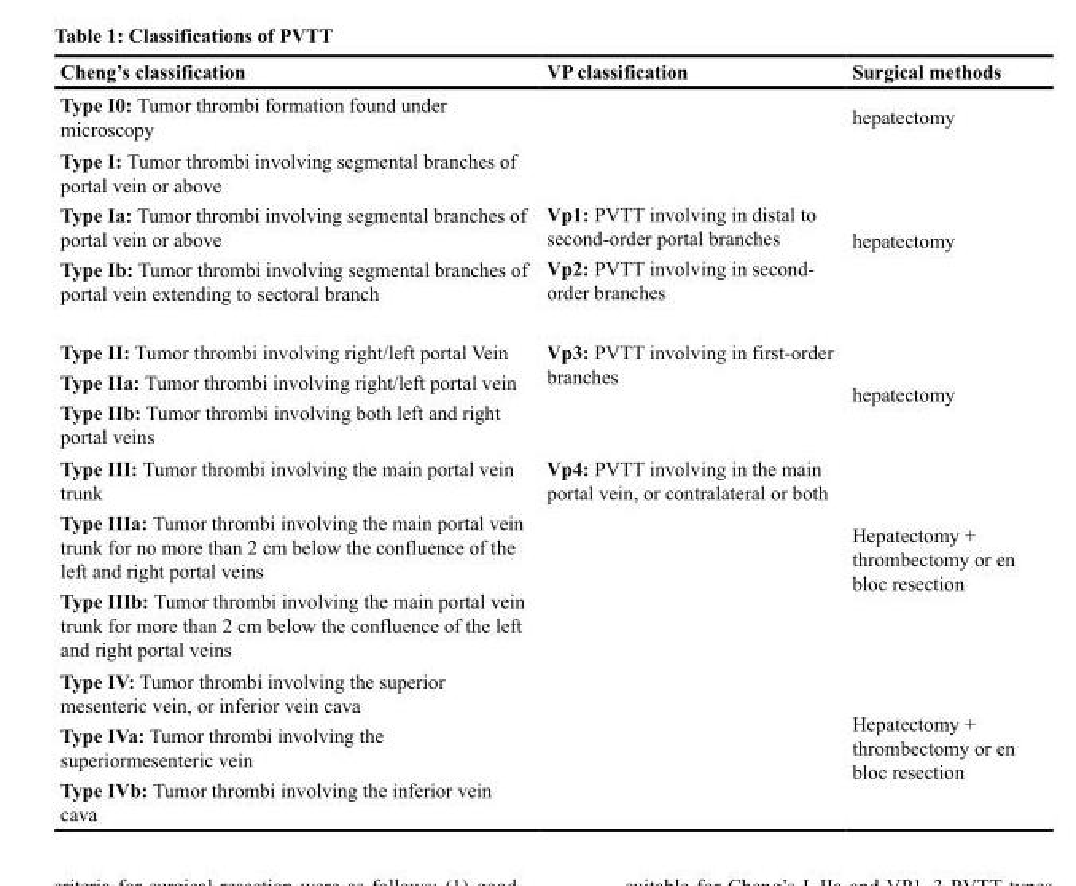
<table><thead><tr><td>Cheng’s classification</td><td>VP classification</td><td>Surgical methods</td></tr></thead><tbody><tr><td>Type I0: Tumor thrombi formation found under microscopy</td><td></td><td>hepatectomy</td></tr><tr><td>Type I: Tumor thrombi involving segmental branches of portal vein or above Type Ia: Tumor thrombi involving segmental branches of portal vein or above Type Ib: Tumor thrombi involving segmental branches of portal vein extending to sectoral branch</td><td>Vp1: PVTT involving in distal to second-order portal branches Vp2: PVTT involving in second- order branches</td><td>hepatectomy</td></tr><tr><td>Type II: Tumor thrombi involving right/left portal Vein Type IIa: Tumor thrombi involving right/left portal vein Type IIb: Tumor thrombi involving both left and right portal veins</td><td>Vp3: PVTT involving in first-order branches</td><td>hepatectomy</td></tr><tr><td>Type III: Tumor thrombi involving the main portal vein trunk Type IIIa: Tumor thrombi involving the main portal vein trunk for no more than 2 cm below the confluence of the left and right portal veins Type IIIb: Tumor thrombi involving the main portal vein trunk for more than 2 cm below the confluence of the left and right portal veins</td><td>Vp4: PVTT involving in the main portal vein, or contralateral or both</td><td>Hepatectomy + thrombectomy or en bloc resection</td></tr><tr><td>Type IV: Tumor thrombi involving the superior mesenteric vein, or inferior vein cava Type IVa: Tumor thrombi involving the superiormesenteric vein Type IVb: Tumor thrombi involving the inferior vein cava</td><td></td><td>Hepatectomy + thrombectomy or en bloc resection</td></tr></tbody></table>